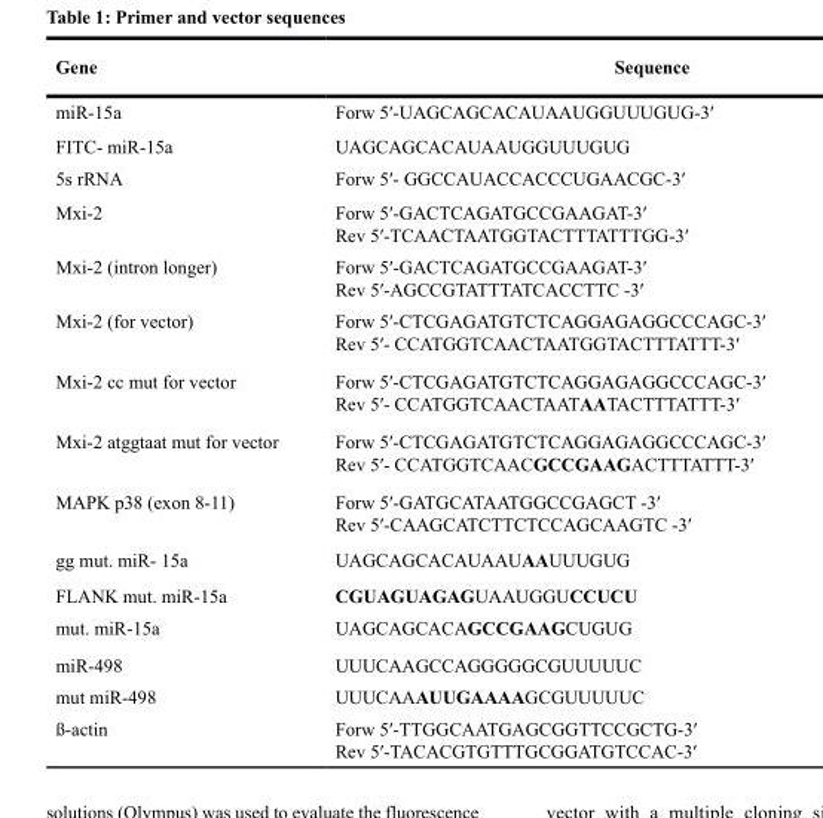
<table><thead><tr><td>Gene</td><td>Sequence</td></tr></thead><tbody><tr><td>miR-15a</td><td>Forw 5′-UAGCAGCACAUAAUGGUUUGUG-3′</td></tr><tr><td>FITC- miR-15a</td><td>UAGCAGCACAUAAUGGUUUGUG</td></tr><tr><td>5s rRNA</td><td>Forw 5′- GGCCAUACCACCCUGAACGC-3′</td></tr><tr><td>Mxi-2</td><td>Forw 5′-GACTCAGATGCCGAAGAT-3′ Rev 5′-TCAACTAATGGTACTTTATTTGG-3′</td></tr><tr><td>Mxi-2 (intron longer)</td><td>Forw 5′-GACTCAGATGCCGAAGAT-3′ Rev 5′-AGCCGTATTTATCACCTTC -3′</td></tr><tr><td>Mxi-2 (for vector)</td><td>Forw 5′-CTCGAGATGTCTCAGGAGAGGCCCAGC-3′ Rev 5′- CCATGGTCAACTAATGGTACTTTATTT-3′</td></tr><tr><td>Mxi-2 cc mut for vector</td><td>Forw 5′-CTCGAGATGTCTCAGGAGAGGCCCAGC-3′ Rev 5′- CCATGGTCAACTAATAATACTTTATTT-3′</td></tr><tr><td>Mxi-2 atggtaat mut for vector</td><td>Forw 5′-CTCGAGATGTCTCAGGAGAGGCCCAGC-3′ Rev 5′- CCATGGTCAACGCCGAAGACTTTATTT-3′</td></tr><tr><td>MAPK p38 (exon 8-11)</td><td>Forw 5′-GATGCATAATGGCCGAGCT -3′ Rev 5′-CAAGCATCTTCTCCAGCAAGTC -3′</td></tr><tr><td>gg mut. miR- 15a</td><td>UAGCAGCACAUAAUAAUUUGUG</td></tr><tr><td>FLANK mut. miR-15a</td><td>CGUAGUAGAGUAAUGGUCCUCU</td></tr><tr><td>mut. miR-15a</td><td>UAGCAGCACAGCCGAAGCUGUG</td></tr><tr><td>miR-498</td><td>UUUCAAGCCAGGGGGCGUUUUUC</td></tr><tr><td>mut miR-498</td><td>UUUCAAAUUGAAAAGCGUUUUUC</td></tr><tr><td>ß-actin</td><td>Forw 5′-TTGGCAATGAGCGGTTCCGCTG-3′ Rev 5′-TACACGTGTTTGCGGATGTCCAC-3′</td></tr></tbody></table>